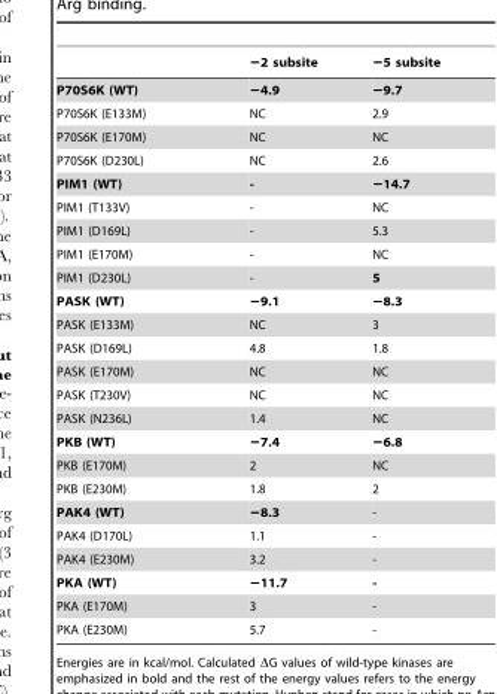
<table><thead><tr><td></td><td>−2 subsite</td><td>−5 subsite</td></tr></thead><tbody><tr><td>P70S6K (WT)</td><td>−4.9</td><td>−9.7</td></tr><tr><td>P70S6K (E133M)</td><td>NC</td><td>2.9</td></tr><tr><td>P70S6K (E170M)</td><td>NC</td><td>NC</td></tr><tr><td>P70S6K (D230L)</td><td>NC</td><td>2.6</td></tr><tr><td>PIM1 (WT)</td><td>-</td><td>−14.7</td></tr><tr><td>PIM1 (T133V)</td><td>-</td><td>NC</td></tr><tr><td>PIM1 (D169L)</td><td>-</td><td>5.3</td></tr><tr><td>PIM1 (E170M)</td><td>-</td><td>NC</td></tr><tr><td>PIM1 (D230L)</td><td>-</td><td>5</td></tr><tr><td>PASK (WT)</td><td>−9.1</td><td>−8.3</td></tr><tr><td>PASK (E133M)</td><td>NC</td><td>3</td></tr><tr><td>PASK (D169L)</td><td>4.8</td><td>1.8</td></tr><tr><td>PASK (E170M)</td><td>NC</td><td>NC</td></tr><tr><td>PASK (T230V)</td><td>NC</td><td>NC</td></tr><tr><td>PASK (N236L)</td><td>1.4</td><td>NC</td></tr><tr><td>PKB (WT)</td><td>−7.4</td><td>−6.8</td></tr><tr><td>PKB (E170M)</td><td>2</td><td>NC</td></tr><tr><td>PKB (E230M)</td><td>1.8</td><td>2</td></tr><tr><td>PAK4 (WT)</td><td>−8.3</td><td>-</td></tr><tr><td>PAK4 (D170L)</td><td>1.1</td><td>-</td></tr><tr><td>PAK4 (E230M)</td><td>3.2</td><td>-</td></tr><tr><td>PKA (WT)</td><td>−11.7</td><td>-</td></tr><tr><td>PKA (E170M)</td><td>3</td><td>-</td></tr><tr><td>PKA (E230M)</td><td>5.7</td><td>-</td></tr></tbody></table>